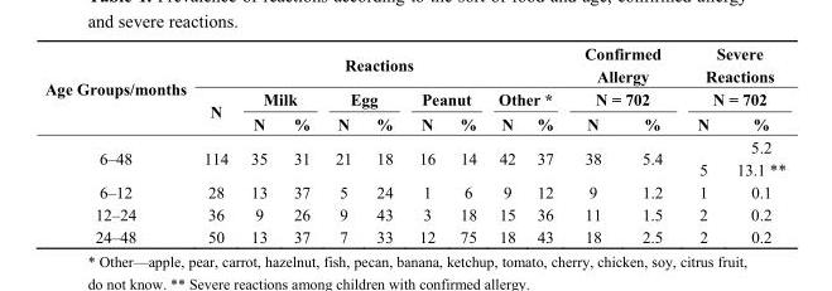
<table><thead><tr><td rowspan="3">Age Groups/months</td><td colspan="9">Reactions</td><td rowspan="2" colspan="2">Confirmed Allergy N = 702</td><td rowspan="2" colspan="2">Severe Reactions N = 702</td></tr><tr><td rowspan="2">N</td><td colspan="2">Milk</td><td colspan="2">Egg</td><td colspan="2">Peanut</td><td colspan="2">Other *</td></tr><tr><td>N</td><td>%</td><td>N</td><td>%</td><td>N</td><td>%</td><td>N</td><td>%</td><td>N</td><td>%</td><td>N</td><td>%</td></tr></thead><tbody><tr><td rowspan="2">6–48</td><td rowspan="2">114</td><td rowspan="2">35</td><td rowspan="2">31</td><td rowspan="2">21</td><td rowspan="2">18</td><td rowspan="2">16</td><td rowspan="2">14</td><td rowspan="2">42</td><td rowspan="2">37</td><td rowspan="2">38</td><td rowspan="2">5.4</td><td></td><td>5.2</td></tr><tr><td>5</td><td>13.1 **</td></tr><tr><td>6–12</td><td>28</td><td>13</td><td>37</td><td>5</td><td>24</td><td>1</td><td>6</td><td>9</td><td>12</td><td>9</td><td>1.2</td><td>1</td><td>0.1</td></tr><tr><td>12–24</td><td>36</td><td>9</td><td>26</td><td>9</td><td>43</td><td>3</td><td>18</td><td>15</td><td>36</td><td>11</td><td>1.5</td><td>2</td><td>0.2</td></tr><tr><td>24–48</td><td>50</td><td>13</td><td>37</td><td>7</td><td>33</td><td>12</td><td>75</td><td>18</td><td>43</td><td>18</td><td>2.5</td><td>2</td><td>0.2</td></tr></tbody></table>